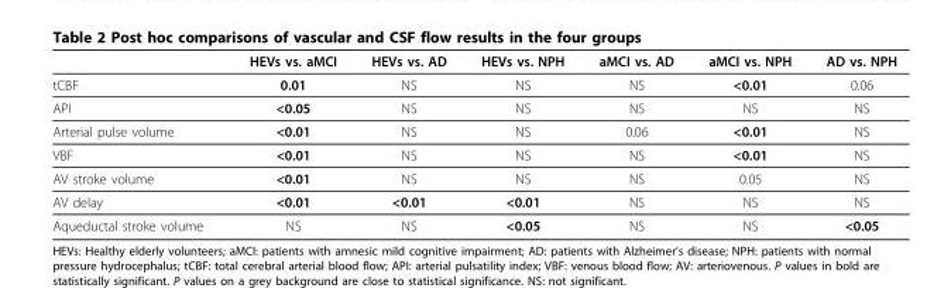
<table><thead><tr><td></td><td>HEVs vs. aMCI</td><td>HEVs vs. AD</td><td>HEVs vs. NPH</td><td>aMCI vs. AD</td><td>aMCI vs. NPH</td><td>AD vs. NPH</td></tr></thead><tbody><tr><td>tCBF</td><td>0.01</td><td>NS</td><td>NS</td><td>NS</td><td>&lt;0.01</td><td>0.06</td></tr><tr><td>API</td><td>&lt;0.05</td><td>NS</td><td>NS</td><td>NS</td><td>NS</td><td>NS</td></tr><tr><td>Arterial pulse volume</td><td>&lt;0.01</td><td>NS</td><td>NS</td><td>0.06</td><td>&lt;0.01</td><td>NS</td></tr><tr><td>VBF</td><td>&lt;0.01</td><td>NS</td><td>NS</td><td>NS</td><td>&lt;0.01</td><td>NS</td></tr><tr><td>AV stroke volume</td><td>&lt;0.01</td><td>NS</td><td>NS</td><td>NS</td><td>0.05</td><td>NS</td></tr><tr><td>AV delay</td><td>&lt;0.01</td><td>&lt;0.01</td><td>&lt;0.01</td><td>NS</td><td>NS</td><td>NS</td></tr><tr><td>Aqueductal stroke volume</td><td>NS</td><td>NS</td><td>&lt;0.05</td><td>NS</td><td>NS</td><td>&lt;0.05</td></tr></tbody></table>